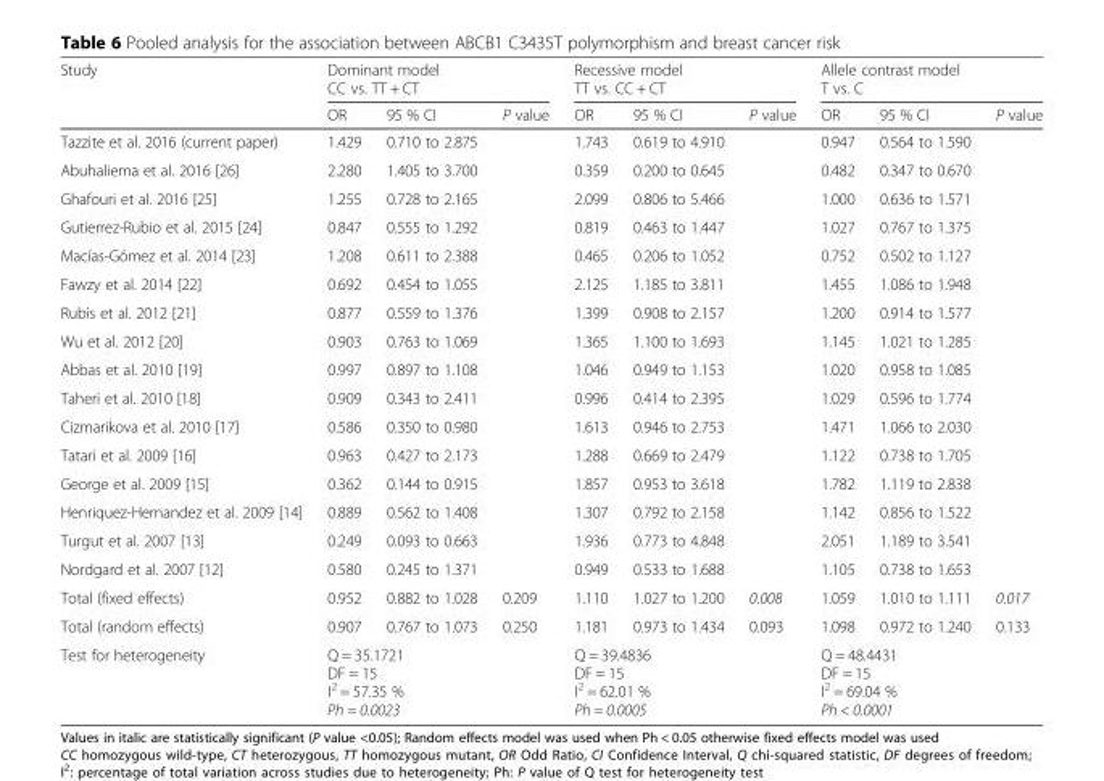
<table><thead><tr><td rowspan="2">Study</td><td colspan="3">Dominant model CC vs. TT + CT</td><td colspan="3">Recessive model TT vs. CC + CT</td><td colspan="3">Allele contrast model T vs. C</td></tr><tr><td>OR</td><td>95 % CI</td><td>P value</td><td>OR</td><td>95 % CI</td><td>P value</td><td>OR</td><td>95 % CI</td><td>P value</td></tr></thead><tbody><tr><td>Tazzite et al. 2016 (current paper)</td><td>1.429</td><td>0.710 to 2.875</td><td rowspan="16"></td><td>1.743</td><td>0.619 to 4.910</td><td rowspan="16"></td><td>0.947</td><td>0.564 to 1.590</td><td rowspan="16"></td></tr><tr><td>Abuhaliema et al. 2016 [26]</td><td>2.280</td><td>1.405 to 3.700</td><td>0.359</td><td>0.200 to 0.645</td><td>0.482</td><td>0.347 to 0.670</td></tr><tr><td>Ghafouri et al. 2016 [25]</td><td>1.255</td><td>0.728 to 2.165</td><td>2.099</td><td>0.806 to 5.466</td><td>1.000</td><td>0.636 to 1.571</td></tr><tr><td>Gutierrez-Rubio et al. 2015 [24]</td><td>0.847</td><td>0.555 to 1.292</td><td>0.819</td><td>0.463 to 1.447</td><td>1.027</td><td>0.767 to 1.375</td></tr><tr><td>Macías-Gómez et al. 2014 [23]</td><td>1.208</td><td>0.611 to 2.388</td><td>0.465</td><td>0.206 to 1.052</td><td>0.752</td><td>0.502 to 1.127</td></tr><tr><td>Fawzy et al. 2014 [22]</td><td>0.692</td><td>0.454 to 1.055</td><td>2.125</td><td>1.185 to 3.811</td><td>1.455</td><td>1.086 to 1.948</td></tr><tr><td>Rubis et al. 2012 [21]</td><td>0.877</td><td>0.559 to 1.376</td><td>1.399</td><td>0.908 to 2.157</td><td>1.200</td><td>0.914 to 1.577</td></tr><tr><td>Wu et al. 2012 [20]</td><td>0.903</td><td>0.763 to 1.069</td><td>1.365</td><td>1.100 to 1.693</td><td>1.145</td><td>1.021 to 1.285</td></tr><tr><td>Abbas et al. 2010 [19]</td><td>0.997</td><td>0.897 to 1.108</td><td>1.046</td><td>0.949 to 1.153</td><td>1.020</td><td>0.958 to 1.085</td></tr><tr><td>Taheri et al. 2010 [18]</td><td>0.909</td><td>0.343 to 2.411</td><td>0.996</td><td>0.414 to 2.395</td><td>1.029</td><td>0.596 to 1.774</td></tr><tr><td>Cizmarikova et al. 2010 [17]</td><td>0.586</td><td>0.350 to 0.980</td><td>1.613</td><td>0.946 to 2.753</td><td>1.471</td><td>1.066 to 2.030</td></tr><tr><td>Tatari et al. 2009 [16]</td><td>0.963</td><td>0.427 to 2.173</td><td>1.288</td><td>0.669 to 2.479</td><td>1.122</td><td>0.738 to 1.705</td></tr><tr><td>George et al. 2009 [15]</td><td>0.362</td><td>0.144 to 0.915</td><td>1.857</td><td>0.953 to 3.618</td><td>1.782</td><td>1.119 to 2.838</td></tr><tr><td>Henriquez-Hernandez et al. 2009 [14]</td><td>0.889</td><td>0.562 to 1.408</td><td>1.307</td><td>0.792 to 2.158</td><td>1.142</td><td>0.856 to 1.522</td></tr><tr><td>Turgut et al. 2007 [13]</td><td>0.249</td><td>0.093 to 0.663</td><td>1.936</td><td>0.773 to 4.848</td><td>2.051</td><td>1.189 to 3.541</td></tr><tr><td>Nordgard et al. 2007 [12]</td><td>0.580</td><td>0.245 to 1.371</td><td>0.949</td><td>0.533 to 1.688</td><td>1.105</td><td>0.738 to 1.653</td></tr><tr><td>Total (fixed effects)</td><td>0.952</td><td>0.882 to 1.028</td><td>0.209</td><td>1.110</td><td>1.027 to 1.200</td><td>0.008</td><td>1.059</td><td>1.010 to 1.111</td><td>0.017</td></tr><tr><td>Total (random effects)</td><td>0.907</td><td>0.767 to 1.073</td><td>0.250</td><td>1.181</td><td>0.973 to 1.434</td><td>0.093</td><td>1.098</td><td>0.972 to 1.240</td><td>0.133</td></tr><tr><td>Test for heterogeneity</td><td colspan="3">Q = 35.1721 DF = 15 I<sup>2</sup> = 57.35 % Ph = 0.0023</td><td colspan="3">Q = 39.4836 DF = 15 I<sup>2</sup> = 62.01 % Ph = 0.0005</td><td colspan="3">Q = 48.4431 DF = 15 I<sup>2</sup> = 69.04 % Ph &lt; 0.0001</td></tr></tbody></table>